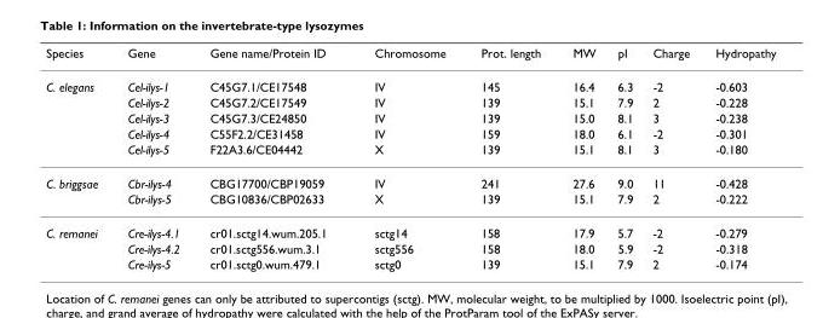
<table><thead><tr><td>Species</td><td>Gene</td><td>Gene name/Protein ID</td><td>Chromosome</td><td>Prot. length</td><td>MW</td><td>pI</td><td>Charge</td><td>Hydropathy</td></tr></thead><tbody><tr><td rowspan="5">C. elegans</td><td>Cel-ilys-1</td><td>C45G7.1/CE17548</td><td>IV</td><td>145</td><td>16.4</td><td>6.3</td><td>-2</td><td>-0.603</td></tr><tr><td>Cel-ilys-2</td><td>C45G7.2/CE17549</td><td>IV</td><td>139</td><td>15.1</td><td>7.9</td><td>2</td><td>-0.228</td></tr><tr><td>Cel-ilys-3</td><td>C45G7.3/CE24850</td><td>IV</td><td>139</td><td>15.0</td><td>8.1</td><td>3</td><td>-0.238</td></tr><tr><td>Cel-ilys-4</td><td>C55F2.2/CE31458</td><td>IV</td><td>159</td><td>18.0</td><td>6.1</td><td>-2</td><td>-0.301</td></tr><tr><td>Cel-ilys-5</td><td>F22A3.6/CE04442</td><td>X</td><td>139</td><td>15.1</td><td>8.1</td><td>3</td><td>-0.180</td></tr><tr><td rowspan="2">C. briggsae</td><td>Cbr-ilys-4</td><td>CBG17700/CBP19059</td><td>IV</td><td>241</td><td>27.6</td><td>9.0</td><td>11</td><td>-0.428</td></tr><tr><td>Cbr-ilys-5</td><td>CBG10836/CBP02633</td><td>X</td><td>139</td><td>15.1</td><td>7.9</td><td>2</td><td>-0.222</td></tr><tr><td rowspan="3">C. remanei</td><td>Cre-ilys-4.1</td><td>cr01.sctg14.wum.205.1</td><td>sctg14</td><td>158</td><td>17.9</td><td>5.7</td><td>-2</td><td>-0.279</td></tr><tr><td>Cre-ilys-4.2</td><td>cr01.sctg556.wum.3.1</td><td>sctg556</td><td>158</td><td>18.0</td><td>5.9</td><td>-2</td><td>-0.318</td></tr><tr><td>Cre-ilys-5</td><td>cr01.sctg0.wum.479.1</td><td>sctg0</td><td>139</td><td>15.1</td><td>7.9</td><td>2</td><td>-0.174</td></tr></tbody></table>